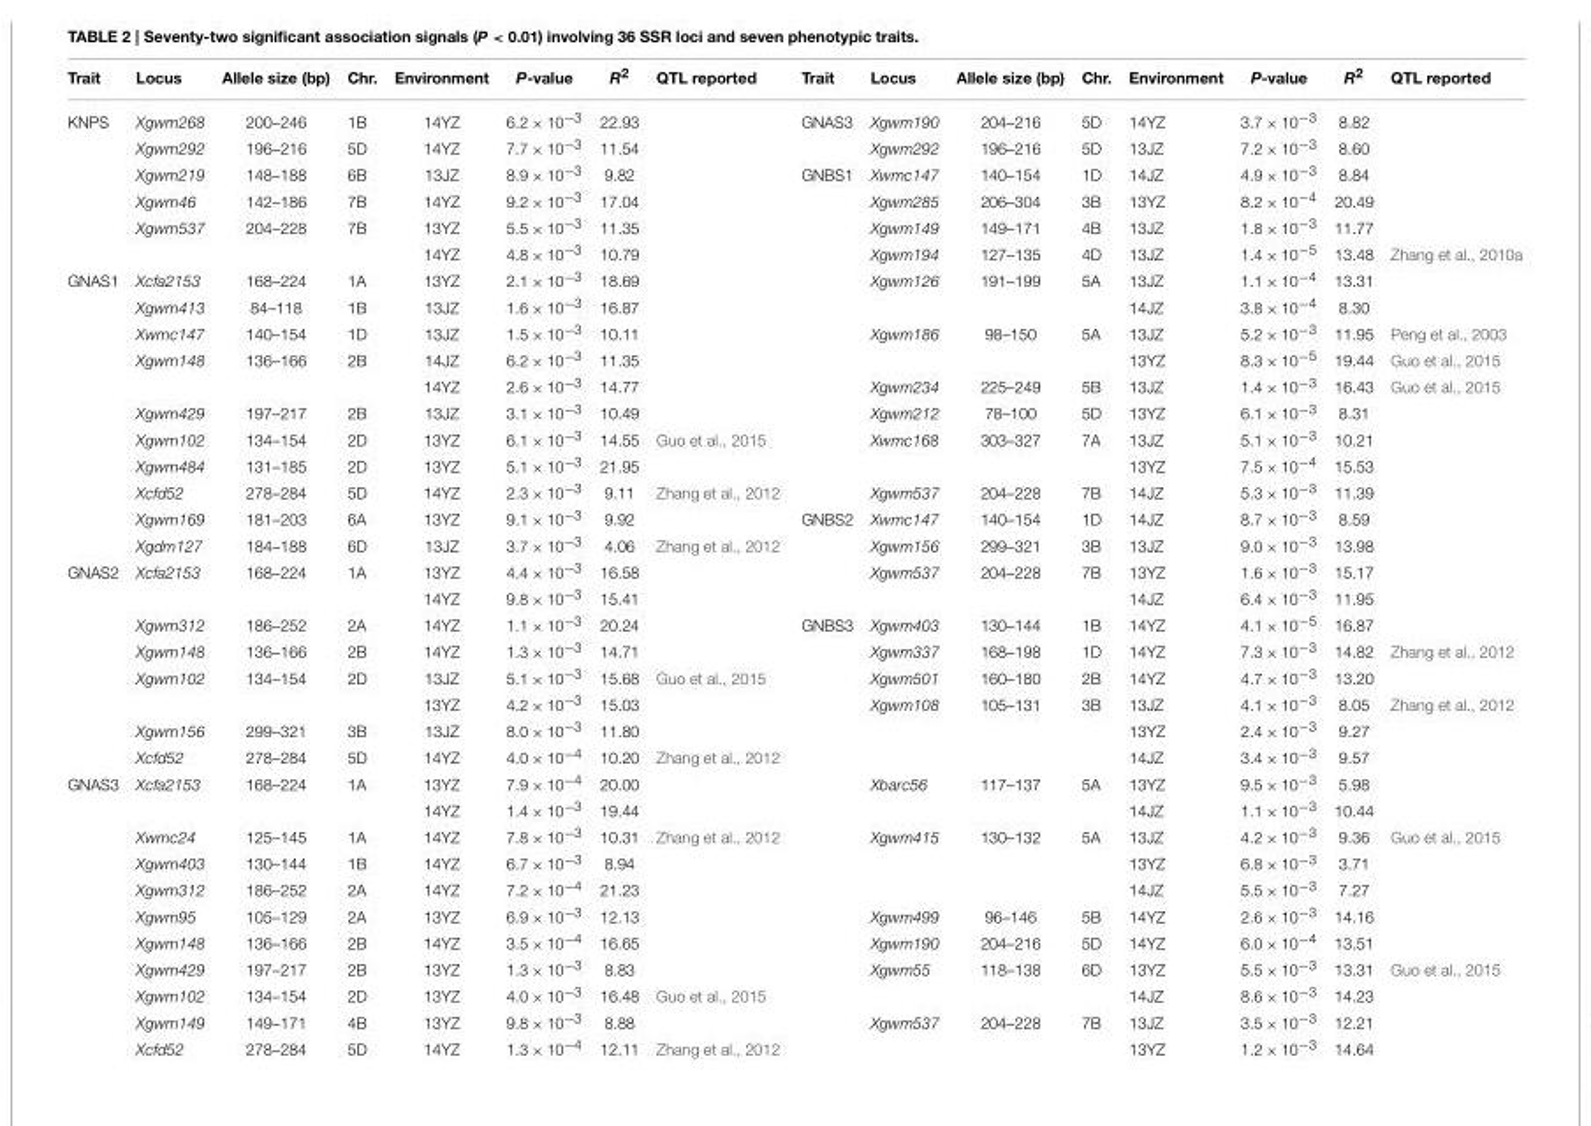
<table><thead><tr><td>Trait</td><td>Locus</td><td>Allele size (bp)</td><td>Chr.</td><td>Environment</td><td>P-value</td><td>R<sup>2</sup></td><td>QTL reported</td><td>Trait</td><td>Locus</td><td>Allele size (bp)</td><td>Chr.</td><td>Environment</td><td>P-value</td><td>R<sup>2</sup></td><td>QTL reported</td></tr></thead><tbody><tr><td rowspan="6">KNPS</td><td>Xgwm268</td><td>200–246</td><td>1B</td><td>14YZ</td><td>6.2 × 10<sup>−3</sup></td><td>22.93</td><td></td><td>GNAS3</td><td>Xgwm190</td><td>204–216</td><td>5D</td><td>14YZ</td><td>3.7 × 10<sup>−3</sup></td><td>8.82</td><td></td></tr><tr><td>Xgwm292</td><td>196–216</td><td>5D</td><td>14YZ</td><td>7.7 × 10<sup>−3</sup></td><td>11.54</td><td></td><td></td><td>Xgwm292</td><td>196–216</td><td>5D</td><td>13JZ</td><td>7.2 × 10<sup>−3</sup></td><td>8.60</td><td></td></tr><tr><td>Xgwm219</td><td>148–188</td><td>6B</td><td>13JZ</td><td>8.9 × 10<sup>−3</sup></td><td>9.82</td><td></td><td>GNBS1</td><td>Xwmc147</td><td>140–154</td><td>1D</td><td>14JZ</td><td>4.9 × 10<sup>−3</sup></td><td>8.84</td><td></td></tr><tr><td>Xgwm46</td><td>142–186</td><td>7B</td><td>14YZ</td><td>9.2 × 10<sup>−3</sup></td><td>17.04</td><td></td><td></td><td>Xgwm285</td><td>206–304</td><td>3B</td><td>13YZ</td><td>8.2 × 10<sup>−4</sup></td><td>20.49</td><td></td></tr><tr><td>Xgwm537</td><td>204–228</td><td>7B</td><td>13YZ</td><td>5.5 × 10<sup>−3</sup></td><td>11.35</td><td></td><td></td><td>Xgwm149</td><td>149–171</td><td>4B</td><td>13JZ</td><td>1.8 × 10<sup>−3</sup></td><td>11.77</td><td></td></tr><tr><td></td><td></td><td></td><td>14YZ</td><td>4.8 × 10<sup>−3</sup></td><td>10.79</td><td></td><td></td><td>Xgwm194</td><td>127–135</td><td>4D</td><td>13JZ</td><td>1.4 × 10<sup>−5</sup></td><td>13.48</td><td>Zhang et al., 2010a</td></tr><tr><td rowspan="11">GNAS1</td><td>Xcfa2153</td><td>168–224</td><td>1A</td><td>13YZ</td><td>2.1 × 10<sup>−3</sup></td><td>18.69</td><td></td><td></td><td>Xgwm126</td><td>191–199</td><td>5A</td><td>13JZ</td><td>1.1 × 10<sup>−4</sup></td><td>13.31</td><td></td></tr><tr><td>Xgwm413</td><td>84–118</td><td>1B</td><td>13JZ</td><td>1.6 × 10<sup>−3</sup></td><td>16.87</td><td></td><td></td><td></td><td></td><td></td><td>14JZ</td><td>3.8 × 10<sup>−4</sup></td><td>8.30</td><td></td></tr><tr><td>Xwmc147</td><td>140–154</td><td>1D</td><td>13JZ</td><td>1.5 × 10<sup>−3</sup></td><td>10.11</td><td></td><td></td><td>Xgwm186</td><td>98–150</td><td>5A</td><td>13JZ</td><td>5.2 × 10<sup>−3</sup></td><td>11.95</td><td>Peng et al., 2003</td></tr><tr><td>Xgwm148</td><td>136–166</td><td>2B</td><td>14JZ</td><td>6.2 × 10<sup>−3</sup></td><td>11.35</td><td></td><td></td><td></td><td></td><td></td><td>13YZ</td><td>8.3 × 10<sup>−5</sup></td><td>19.44</td><td>Guo et al., 2015</td></tr><tr><td></td><td></td><td></td><td>14YZ</td><td>2.6 × 10<sup>−3</sup></td><td>14.77</td><td></td><td></td><td>Xgwm234</td><td>225–249</td><td>5B</td><td>13JZ</td><td>1.4 × 10<sup>−3</sup></td><td>16.43</td><td>Guo et al., 2015</td></tr><tr><td>Xgwm429</td><td>197–217</td><td>2B</td><td>13JZ</td><td>3.1 × 10<sup>−3</sup></td><td>10.49</td><td></td><td></td><td>Xgwm212</td><td>78–100</td><td>5D</td><td>13YZ</td><td>6.1 × 10<sup>−3</sup></td><td>8.31</td><td></td></tr><tr><td>Xgwm102</td><td>134–154</td><td>2D</td><td>13YZ</td><td>6.1 × 10<sup>−3</sup></td><td>14.55</td><td>Guo et al., 2015</td><td></td><td>Xwmc168</td><td>303–327</td><td>7A</td><td>13JZ</td><td>5.1 × 10<sup>−3</sup></td><td>10.21</td><td></td></tr><tr><td>Xgwm484</td><td>131–185</td><td>2D</td><td>13YZ</td><td>5.1 × 10<sup>−3</sup></td><td>21.95</td><td></td><td></td><td></td><td></td><td></td><td>13YZ</td><td>7.5 × 10<sup>−4</sup></td><td>15.53</td><td></td></tr><tr><td>Xcfd52</td><td>278–284</td><td>5D</td><td>14YZ</td><td>2.3 × 10<sup>−3</sup></td><td>9.11</td><td>Zhang et al., 2012</td><td></td><td>Xgwm537</td><td>204–228</td><td>7B</td><td>14JZ</td><td>5.3 × 10<sup>−3</sup></td><td>11.39</td><td></td></tr><tr><td>Xgwm169</td><td>181–203</td><td>6A</td><td>13YZ</td><td>9.1 × 10<sup>−3</sup></td><td>9.92</td><td></td><td>GNBS2</td><td>Xwmc147</td><td>140–154</td><td>1D</td><td>14JZ</td><td>8.7 × 10<sup>−3</sup></td><td>8.59</td><td></td></tr><tr><td>Xgdm127</td><td>184–188</td><td>6D</td><td>13JZ</td><td>3.7 × 10<sup>−3</sup></td><td>4.06</td><td>Zhang et al., 2012</td><td></td><td>Xgwm156</td><td>299–321</td><td>3B</td><td>13JZ</td><td>9.0 × 10<sup>−3</sup></td><td>13.98</td><td></td></tr><tr><td rowspan="8">GNAS2</td><td>Xcfa2153</td><td>168–224</td><td>1A</td><td>13YZ</td><td>4.4 × 10<sup>−3</sup></td><td>16.58</td><td></td><td></td><td>Xgwm537</td><td>204–228</td><td>7B</td><td>13YZ</td><td>1.6 × 10<sup>−3</sup></td><td>15.17</td><td></td></tr><tr><td></td><td></td><td></td><td>14YZ</td><td>9.8 × 10<sup>−3</sup></td><td>15.41</td><td></td><td></td><td></td><td></td><td></td><td>14JZ</td><td>6.4 × 10<sup>−3</sup></td><td>11.95</td><td></td></tr><tr><td>Xgwm312</td><td>186–252</td><td>2A</td><td>14YZ</td><td>1.1 × 10<sup>−3</sup></td><td>20.24</td><td></td><td>GNBS3</td><td>Xgwm403</td><td>130–144</td><td>1B</td><td>14YZ</td><td>4.1 × 10<sup>−5</sup></td><td>16.87</td><td></td></tr><tr><td>Xgwm148</td><td>136–166</td><td>2B</td><td>14YZ</td><td>1.3 × 10<sup>−3</sup></td><td>14.71</td><td></td><td></td><td>Xgwm337</td><td>168–198</td><td>1D</td><td>14YZ</td><td>7.3 × 10<sup>−3</sup></td><td>14.82</td><td>Zhang et al., 2012</td></tr><tr><td>Xgwm102</td><td>134–154</td><td>2D</td><td>13JZ</td><td>5.1 × 10<sup>−3</sup></td><td>15.68</td><td>Guo et al., 2015</td><td></td><td>Xgwm501</td><td>160–180</td><td>2B</td><td>14YZ</td><td>4.7 × 10<sup>−3</sup></td><td>13.20</td><td></td></tr><tr><td></td><td></td><td></td><td>13YZ</td><td>4.2 × 10<sup>−3</sup></td><td>15.03</td><td></td><td></td><td>Xgwm108</td><td>105–131</td><td>3B</td><td>13JZ</td><td>4.1 × 10<sup>−3</sup></td><td>8.05</td><td>Zhang et al., 2012</td></tr><tr><td>Xgwm156</td><td>299–321</td><td>3B</td><td>13JZ</td><td>8.0 × 10<sup>−3</sup></td><td>11.80</td><td></td><td></td><td></td><td></td><td></td><td>13YZ</td><td>2.4 × 10<sup>−3</sup></td><td>9.27</td><td></td></tr><tr><td>Xcfd52</td><td>278–284</td><td>5D</td><td>14YZ</td><td>4.0 × 10<sup>−4</sup></td><td>10.20</td><td>Zhang et al., 2012</td><td></td><td></td><td></td><td></td><td>14JZ</td><td>3.4 × 10<sup>−3</sup></td><td>9.57</td><td></td></tr><tr><td rowspan="11">GNAS3</td><td>Xcfa2153</td><td>168–224</td><td>1A</td><td>13YZ</td><td>7.9 × 10<sup>−4</sup></td><td>20.00</td><td></td><td></td><td>Xbarc56</td><td>117–137</td><td>5A</td><td>13YZ</td><td>9.5 × 10<sup>−3</sup></td><td>5.98</td><td></td></tr><tr><td></td><td></td><td></td><td>14YZ</td><td>1.4 × 10<sup>−3</sup></td><td>19.44</td><td></td><td></td><td></td><td></td><td></td><td>14JZ</td><td>1.1 × 10<sup>−3</sup></td><td>10.44</td><td></td></tr><tr><td>Xwmc24</td><td>125–145</td><td>1A</td><td>14YZ</td><td>7.8 × 10<sup>−3</sup></td><td>10.31</td><td>Zhang et al., 2012</td><td></td><td>Xgwm415</td><td>130–132</td><td>5A</td><td>13JZ</td><td>4.2 × 10<sup>−3</sup></td><td>9.36</td><td>Guo et al., 2015</td></tr><tr><td>Xgwm403</td><td>130–144</td><td>1B</td><td>14YZ</td><td>6.7 × 10<sup>−3</sup></td><td>8.94</td><td></td><td></td><td></td><td></td><td></td><td>13YZ</td><td>6.8 × 10<sup>−3</sup></td><td>3.71</td><td></td></tr><tr><td>Xgwm312</td><td>186–252</td><td>2A</td><td>14YZ</td><td>7.2 × 10<sup>−4</sup></td><td>21.23</td><td></td><td></td><td></td><td></td><td></td><td>14JZ</td><td>5.5 × 10<sup>−3</sup></td><td>7.27</td><td></td></tr><tr><td>Xgwm95</td><td>105–129</td><td>2A</td><td>13YZ</td><td>6.9 × 10<sup>−3</sup></td><td>12.13</td><td></td><td></td><td>Xgwm499</td><td>96–146</td><td>5B</td><td>14YZ</td><td>2.6 × 10<sup>−3</sup></td><td>14.16</td><td></td></tr><tr><td>Xgwm148</td><td>136–166</td><td>2B</td><td>14YZ</td><td>3.5 × 10<sup>−4</sup></td><td>16.65</td><td></td><td></td><td>Xgwm190</td><td>204–216</td><td>5D</td><td>14YZ</td><td>6.0 × 10<sup>−4</sup></td><td>13.51</td><td></td></tr><tr><td>Xgwm429</td><td>197–217</td><td>2B</td><td>13YZ</td><td>1.3 × 10<sup>−3</sup></td><td>8.83</td><td></td><td></td><td>Xgwm55</td><td>118–138</td><td>6D</td><td>13YZ</td><td>5.5 × 10<sup>−3</sup></td><td>13.31</td><td>Guo et al., 2015</td></tr><tr><td>Xgwm102</td><td>134–154</td><td>2D</td><td>13YZ</td><td>4.0 × 10<sup>−3</sup></td><td>16.48</td><td>Guo et al., 2015</td><td></td><td></td><td></td><td></td><td>14JZ</td><td>8.6 × 10<sup>−3</sup></td><td>14.23</td><td></td></tr><tr><td>Xgwm149</td><td>149–171</td><td>4B</td><td>13YZ</td><td>9.8 × 10<sup>−3</sup></td><td>8.88</td><td></td><td></td><td>Xgwm537</td><td>204–228</td><td>7B</td><td>13JZ</td><td>3.5 × 10<sup>−3</sup></td><td>12.21</td><td></td></tr><tr><td>Xcfd52</td><td>278–284</td><td>5D</td><td>14YZ</td><td>1.3 × 10<sup>−4</sup></td><td>12.11</td><td>Zhang et al., 2012</td><td></td><td></td><td></td><td></td><td>13YZ</td><td>1.2 × 10<sup>−3</sup></td><td>14.64</td><td></td></tr></tbody></table>